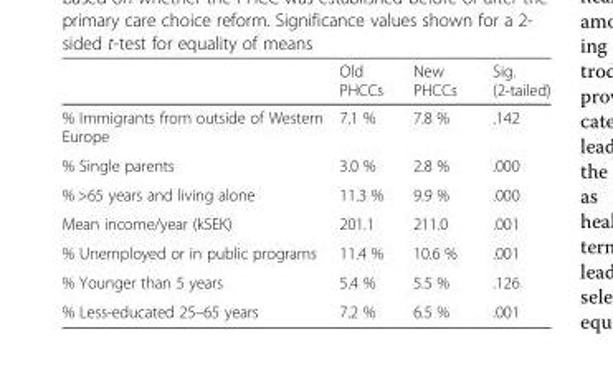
<table><thead><tr><td></td><td>Old PHCCs</td><td>New PHCCs</td><td>Sig. (2-tailed)</td></tr></thead><tbody><tr><td>% Immigrants from outside of Western Europe</td><td>7.1 %</td><td>7.8 %</td><td>.142</td></tr><tr><td>% Single parents</td><td>3.0 %</td><td>2.8 %</td><td>.000</td></tr><tr><td>% &gt;65 years and living alone</td><td>11.3 %</td><td>9.9 %</td><td>.000</td></tr><tr><td>Mean income/year (kSEK)</td><td>201.1</td><td>211.0</td><td>.001</td></tr><tr><td>% Unemployed or in public programs</td><td>11.4 %</td><td>10.6 %</td><td>.001</td></tr><tr><td>% Younger than 5 years</td><td>5.4 %</td><td>5.5 %</td><td>.126</td></tr><tr><td>% Less-educated 25–65 years</td><td>7.2 %</td><td>6.5 %</td><td>.001</td></tr></tbody></table>